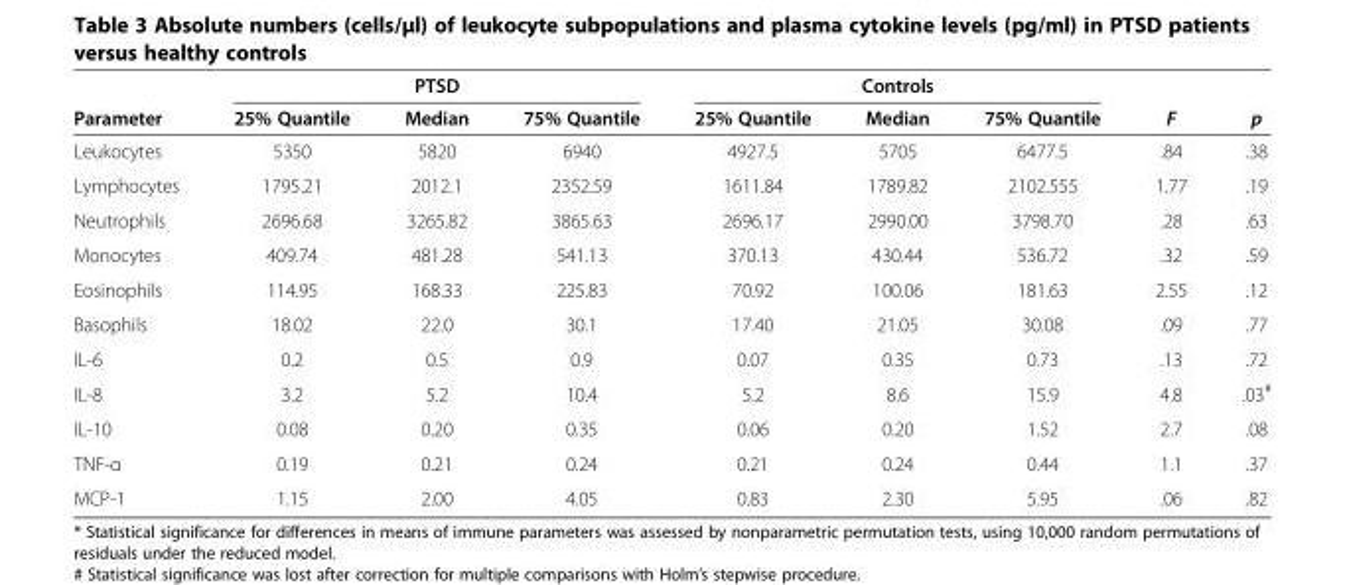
<table><thead><tr><td rowspan="2">Parameter</td><td colspan="3">PTSD</td><td colspan="3">Controls</td><td rowspan="2">F</td><td rowspan="2">p</td></tr><tr><td>25% Quantile</td><td>Median</td><td>75% Quantile</td><td>25% Quantile</td><td>Median</td><td>75% Quantile</td></tr></thead><tbody><tr><td>Leukocytes</td><td>5350</td><td>5820</td><td>6940</td><td>4927.5</td><td>5705</td><td>6477.5</td><td>.84</td><td>.38</td></tr><tr><td>Lymphocytes</td><td>1795.21</td><td>2012.1</td><td>2352.59</td><td>1611.84</td><td>1789.82</td><td>2102.555</td><td>1.77</td><td>.19</td></tr><tr><td>Neutrophils</td><td>2696.68</td><td>3265.82</td><td>3865.63</td><td>2696.17</td><td>2990.00</td><td>3798.70</td><td>.28</td><td>.63</td></tr><tr><td>Monocytes</td><td>409.74</td><td>481.28</td><td>541.13</td><td>370.13</td><td>430.44</td><td>536.72</td><td>.32</td><td>.59</td></tr><tr><td>Eosinophils</td><td>114.95</td><td>168.33</td><td>225.83</td><td>70.92</td><td>100.06</td><td>181.63</td><td>2.55</td><td>.12</td></tr><tr><td>Basophils</td><td>18.02</td><td>22.0</td><td>30.1</td><td>17.40</td><td>21.05</td><td>30.08</td><td>.09</td><td>.77</td></tr><tr><td>IL-6</td><td>0.2</td><td>0.5</td><td>0.9</td><td>0.07</td><td>0.35</td><td>0.73</td><td>.13</td><td>.72</td></tr><tr><td>IL-8</td><td>3.2</td><td>5.2</td><td>10.4</td><td>5.2</td><td>8.6</td><td>15.9</td><td>4.8</td><td>.03<sup>#</sup></td></tr><tr><td>IL-10</td><td>0.08</td><td>0.20</td><td>0.35</td><td>0.06</td><td>0.20</td><td>1.52</td><td>2.7</td><td>.08</td></tr><tr><td>TNF-α</td><td>0.19</td><td>0.21</td><td>0.24</td><td>0.21</td><td>0.24</td><td>0.44</td><td>1.1</td><td>.37</td></tr><tr><td>MCP-1</td><td>1.15</td><td>2.00</td><td>4.05</td><td>0.83</td><td>2.30</td><td>5.95</td><td>.06</td><td>.82</td></tr></tbody></table>